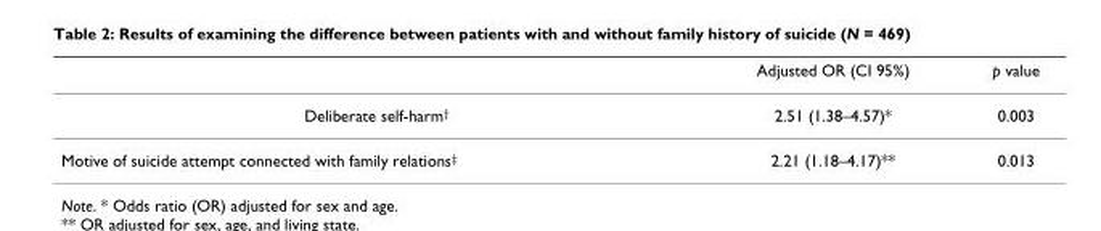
<table><thead><tr><td></td><td>Adjusted OR (CI 95%)</td><td>p value</td></tr></thead><tbody><tr><td>Deliberate self-harm<sup>†</sup></td><td>2.51 (1.38–4.57)*</td><td>0.003</td></tr><tr><td>Motive of suicide attempt connected with family relations<sup>‡</sup></td><td>2.21 (1.18–4.17)**</td><td>0.013</td></tr></tbody></table>